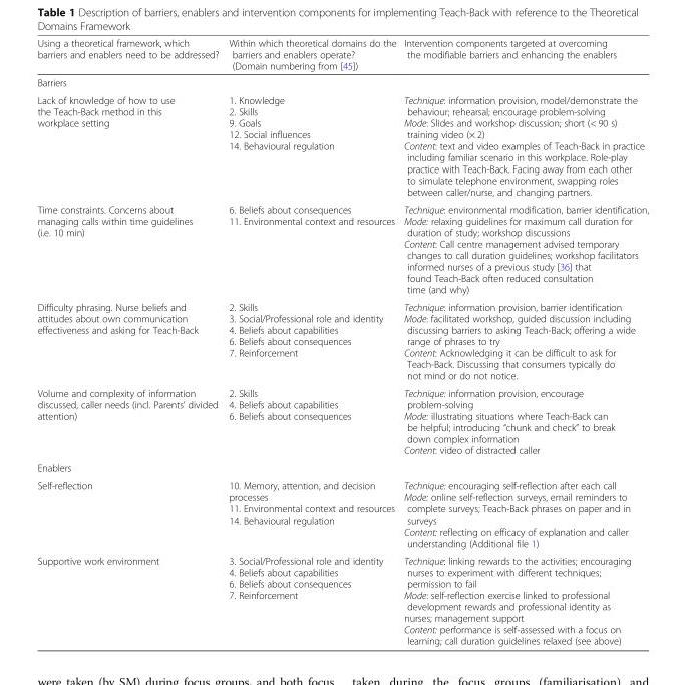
<table><thead><tr><td>Using a theoretical framework, which barriers and enablers need to be addressed?</td><td>Within which theoretical domains do the barriers and enablers operate? (Domain numbering from [45])</td><td>Intervention components targeted at overcoming the modifiable barriers and enhancing the enablers</td></tr></thead><tbody><tr><td colspan="3">Barriers</td></tr><tr><td>Lack of knowledge of how to use the Teach-Back method in this workplace setting</td><td>1. Knowledge 2. Skills 9. Goals 12. Social influences 14. Behavioural regulation</td><td>Technique: information provision, model/demonstrate the behaviour; rehearsal; encourage problem-solving Mode: Slides and workshop discussion; short (&lt; 90 s) training video (× 2) Content: text and video examples of Teach-Back in practice including familiar scenario in this workplace. Role-play practice with Teach-Back. Facing away from each other to simulate telephone environment, swapping roles between caller/nurse, and changing partners.</td></tr><tr><td>Time constraints. Concerns about managing calls within time guidelines (i.e. 10 min)</td><td>6. Beliefs about consequences 11. Environmental context and resources</td><td>Technique: environmental modification, barrier identification, Mode: relaxing guidelines for maximum call duration for duration of study; workshop discussions Content: Call centre management advised temporary changes to call duration guidelines; workshop facilitators informed nurses of a previous study [36] that found Teach-Back often reduced consultation time (and why)</td></tr><tr><td>Difficulty phrasing. Nurse beliefs and attitudes about own communication effectiveness and asking for Teach-Back</td><td>2. Skills 3. Social/Professional role and identity 4. Beliefs about capabilities 6. Beliefs about consequences 7. Reinforcement</td><td>Technique: information provision, barrier identification Mode: facilitated workshop, guided discussion including discussing barriers to asking Teach-Back; offering a wide range of phrases to try Content: Acknowledging it can be difficult to ask for Teach-Back. Discussing that consumers typically do not mind or do not notice.</td></tr><tr><td>Volume and complexity of information discussed, caller needs (incl. Parents’ divided attention)</td><td>2. Skills 4. Beliefs about capabilities 6. Beliefs about consequences</td><td>Technique: information provision, encourage problem-solving Mode: illustrating situations where Teach-Back can be helpful; introducing “chunk and check” to break down complex information Content: video of distracted caller</td></tr><tr><td colspan="3">Enablers</td></tr><tr><td>Self-reflection</td><td>10. Memory, attention, and decision processes 11. Environmental context and resources 14. Behavioural regulation</td><td>Technique: encouraging self-reflection after each call Mode: online self-reflection surveys, email reminders to complete surveys; Teach-Back phrases on paper and in surveys Content: reflecting on efficacy of explanation and caller understanding (Additional file 1)</td></tr><tr><td>Supportive work environment</td><td>3. Social/Professional role and identity 4. Beliefs about capabilities 6. Beliefs about consequences 7. Reinforcement</td><td>Technique: linking rewards to the activities; encouraging nurses to experiment with different techniques; permission to fail Mode: self-reflection exercise linked to professional development rewards and professional identity as nurses; management support Content: performance is self-assessed with a focus on learning; call duration guidelines relaxed (see above)</td></tr></tbody></table>